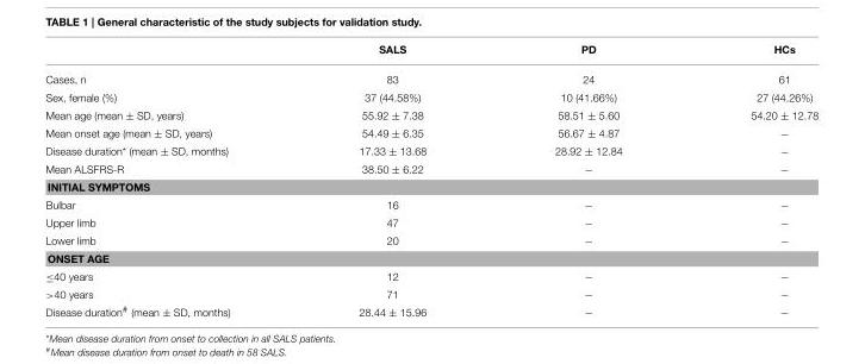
<table><thead><tr><td></td><td>SALS</td><td>PD</td><td>HCs</td></tr></thead><tbody><tr><td>Cases, n</td><td>83</td><td>24</td><td>61</td></tr><tr><td>Sex, female (%)</td><td>37 (44.58%)</td><td>10 (41.66%)</td><td>27 (44.26%)</td></tr><tr><td>Mean age (mean ± SD, years)</td><td>55.92 ± 7.38</td><td>58.51 ± 5.60</td><td>54.20 ± 12.78</td></tr><tr><td>Mean onset age (mean ± SD, years)</td><td>54.49 ± 6.35</td><td>56.67 ± 4.87</td><td>−</td></tr><tr><td>Disease duration* (mean ± SD, months)</td><td>17.33 ± 13.68</td><td>28.92 ± 12.84</td><td>−</td></tr><tr><td>Mean ALSFRS-R</td><td>38.50 ± 6.22</td><td>−</td><td>−</td></tr><tr><td colspan="4">INITIAL SYMPTOMS</td></tr><tr><td>Bulbar</td><td>16</td><td>−</td><td>−</td></tr><tr><td>Upper limb</td><td>47</td><td>−</td><td>−</td></tr><tr><td>Lower limb</td><td>20</td><td>−</td><td>−</td></tr><tr><td colspan="4">ONSET AGE</td></tr><tr><td>≤40 years</td><td>12</td><td>−</td><td>−</td></tr><tr><td>&gt;40 years</td><td>71</td><td>−</td><td>−</td></tr><tr><td>Disease duration<sup>#</sup> (mean ± SD, months)</td><td>28.44 ± 15.96</td><td>−</td><td>−</td></tr></tbody></table>